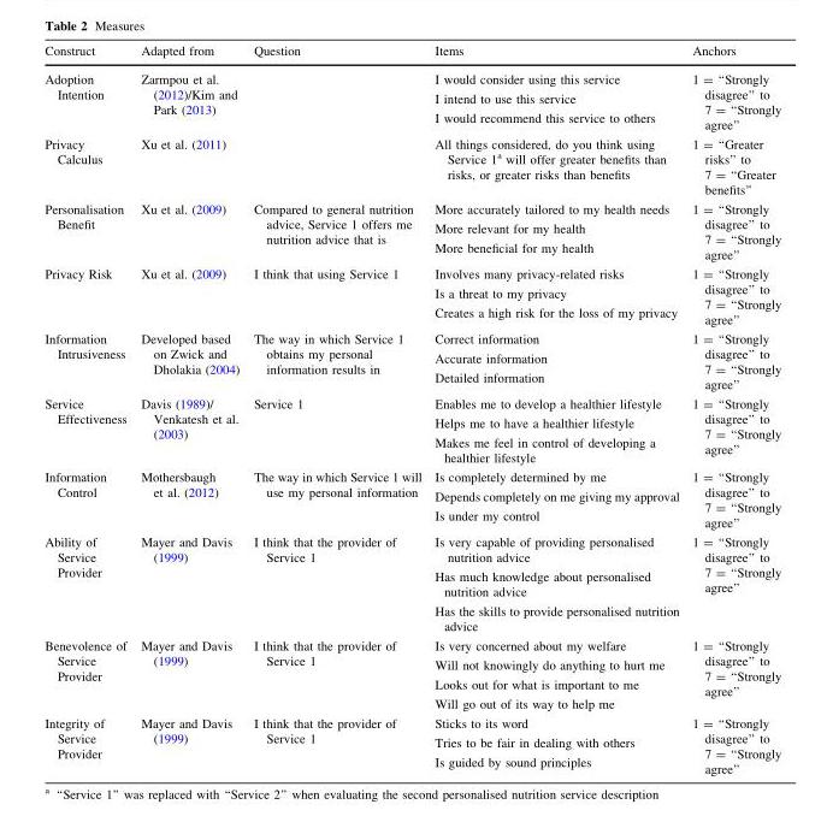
<table><thead><tr><td>Construct</td><td>Adapted from</td><td>Question</td><td>Items</td><td>Anchors</td></tr></thead><tbody><tr><td>Adoption Intention</td><td>Zarmpou et al. (2012)/Kim and Park (2013)</td><td></td><td>I would consider using this service I intend to use this service I would recommend this service to others</td><td>1 = ‘‘Strongly disagree’’ to 7 = ‘‘Strongly agree’’</td></tr><tr><td>Privacy Calculus</td><td>Xu et al. (2011)</td><td></td><td>All things considered, do you think using Service 1<sup>a</sup> will offer greater benefits than risks, or greater risks than benefits</td><td>1 = ‘‘Greater risks’’ to 7 = ‘‘Greater benefits’’</td></tr><tr><td>Personalisation Benefit</td><td>Xu et al. (2009)</td><td>Compared to general nutrition advice, Service 1 offers me nutrition advice that is</td><td>More accurately tailored to my health needs More relevant for my health More beneficial for my health</td><td>1 = ‘‘Strongly disagree’’ to 7 = ‘‘Strongly agree’’</td></tr><tr><td>Privacy Risk</td><td>Xu et al. (2009)</td><td>I think that using Service 1</td><td>Involves many privacy-related risks Is a threat to my privacy Creates a high risk for the loss of my privacy</td><td>1 = ‘‘Strongly disagree’’ to 7 = ‘‘Strongly agree’’</td></tr><tr><td>Information Intrusiveness</td><td>Developed based on Zwick and Dholakia (2004)</td><td>The way in which Service 1 obtains my personal information results in</td><td>Correct information Accurate information Detailed information</td><td>1 = ‘‘Strongly disagree’’ to 7 = ‘‘Strongly agree’’</td></tr><tr><td>Service Effectiveness</td><td>Davis (1989)/ Venkatesh et al. (2003)</td><td>Service 1</td><td>Enables me to develop a healthier lifestyle Helps me to have a healthier lifestyle Makes me feel in control of developing a healthier lifestyle</td><td>1 = ‘‘Strongly disagree’’ to 7 = ‘‘Strongly agree’’</td></tr><tr><td>Information Control</td><td>Mothersbaugh et al. (2012)</td><td>The way in which Service 1 will use my personal information</td><td>Is completely determined by me Depends completely on me giving my approval Is under my control</td><td>1 = ‘‘Strongly disagree’’ to 7 = ‘‘Strongly agree’’</td></tr><tr><td>Ability of Service Provider</td><td>Mayer and Davis (1999)</td><td>I think that the provider of Service 1</td><td>Is very capable of providing personalised nutrition advice Has much knowledge about personalised nutrition advice Has the skills to provide personalised nutrition advice</td><td>1 = ‘‘Strongly disagree’’ to 7 = ‘‘Strongly agree’’</td></tr><tr><td>Benevolence of Service Provider</td><td>Mayer and Davis (1999)</td><td>I think that the provider of Service 1</td><td>Is very concerned about my welfare Will not knowingly do anything to hurt me Looks out for what is important to me Will go out of its way to help me</td><td>1 = ‘‘Strongly disagree’’ to 7 = ‘‘Strongly agree’’</td></tr><tr><td>Integrity of Service Provider</td><td>Mayer and Davis (1999)</td><td>I think that the provider of Service 1</td><td>Sticks to its word Tries to be fair in dealing with others Is guided by sound principles</td><td>1 = ‘‘Strongly disagree’’ to 7 = ‘‘Strongly agree’’</td></tr></tbody></table>